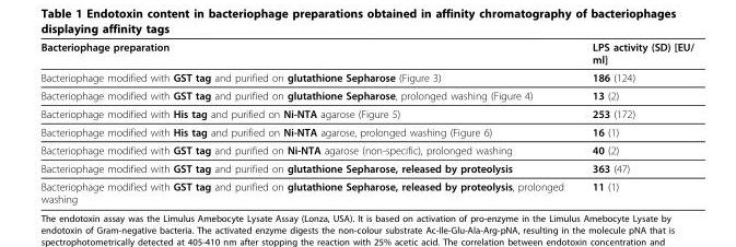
<table><thead><tr><td>Bacteriophage preparation</td><td>LPS activity (SD) [EU/ ml]</td></tr></thead><tbody><tr><td>Bacteriophage modified with GST tag and purified on glutathione Sepharose (Figure 3)</td><td>186 (124)</td></tr><tr><td>Bacteriophage modified with GST tag and purified on glutathione Sepharose, prolonged washing (Figure 4)</td><td>13 (2)</td></tr><tr><td>Bacteriophage modified with His tag and purified on Ni-NTA agarose (Figure 5)</td><td>253 (172)</td></tr><tr><td>Bacteriophage modified with His tag and purified on Ni-NTA agarose, prolonged washing (Figure 6)</td><td>16 (1)</td></tr><tr><td>Bacteriophage modified with GST tag and purified on Ni-NTA agarose (non-specific), prolonged washing</td><td>40 (2)</td></tr><tr><td>Bacteriophage modified with GST tag and purified on glutathione Sepharose, released by proteolysis</td><td>363 (47)</td></tr><tr><td>Bacteriophage modified with GST tag and purified on glutathione Sepharose, released by proteolysis, prolonged washing</td><td>11 (1)</td></tr></tbody></table>